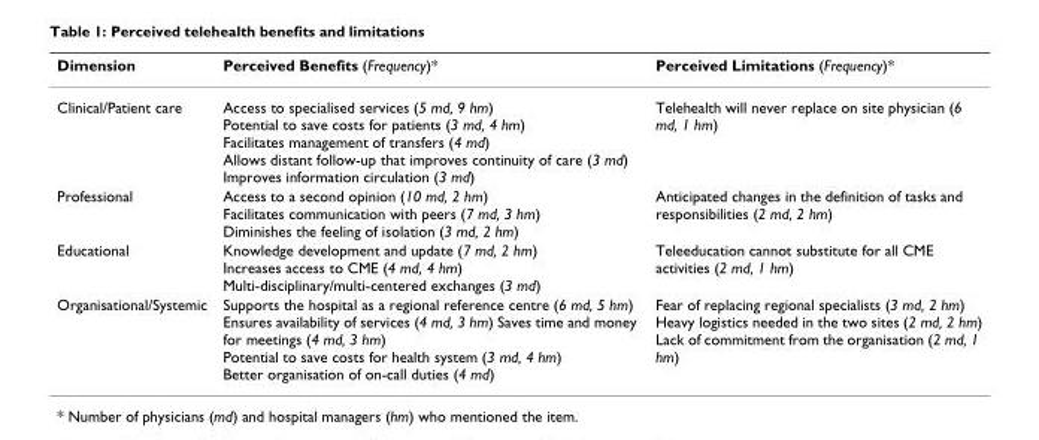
<table><thead><tr><td>Dimension</td><td>Perceived Benefits (Frequency)*</td><td>Perceived Limitations (Frequency)*</td></tr></thead><tbody><tr><td>Clinical/Patient care</td><td>Access to specialised services (5 md, 9 hm) Potential to save costs for patients (3 md, 4 hm) Facilitates management of transfers (4 md) Allows distant follow-up that improves continuity of care (3 md) Improves information circulation (3 md)</td><td>Telehealth will never replace on site physician (6 md, 1 hm)</td></tr><tr><td>Professional</td><td>Access to a second opinion (10 md, 2 hm) Facilitates communication with peers (7 md, 3 hm) Diminishes the feeling of isolation (3 md, 2 hm)</td><td>Anticipated changes in the definition of tasks and responsibilities (2 md, 2 hm)</td></tr><tr><td>Educational</td><td>Knowledge development and update (7 md, 2 hm) Increases access to CME (4 md, 4 hm) Multi-disciplinary/multi-centered exchanges (3 md)</td><td>Teleeducation cannot substitute for all CME activities (2 md, 1 hm)</td></tr><tr><td>Organisational/Systemic</td><td>Supports the hospital as a regional reference centre (6 md, 5 hm) Ensures availability of services (4 md, 3 hm) Saves time and money for meetings (4 md, 3 hm) Potential to save costs for health system (3 md, 4 hm) Better organisation of on-call duties (4 md)</td><td>Fear of replacing regional specialists (3 md, 2 hm) Heavy logistics needed in the two sites (2 md, 2 hm) Lack of commitment from the organisation (2 md, 1 hm)</td></tr></tbody></table>